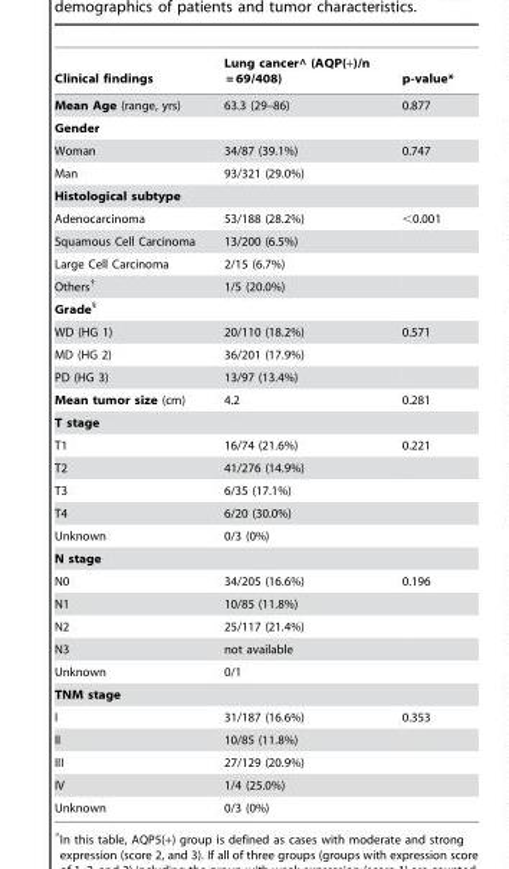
<table><thead><tr><td>Clinical findings</td><td>Lung cancer^ (AQP(+)/n = 69/408)</td><td>p-value*</td></tr></thead><tbody><tr><td>Mean Age (range, yrs)</td><td>63.3 (29–86)</td><td>0.877</td></tr><tr><td colspan="3">Gender</td></tr><tr><td>Woman</td><td>34/87 (39.1%)</td><td>0.747</td></tr><tr><td>Man</td><td>93/321 (29.0%)</td><td></td></tr><tr><td colspan="3">Histological subtype</td></tr><tr><td>Adenocarcinoma</td><td>53/188 (28.2%)</td><td>&lt;0.001</td></tr><tr><td>Squamous Cell Carcinoma</td><td>13/200 (6.5%)</td><td></td></tr><tr><td>Large Cell Carcinoma</td><td>2/15 (6.7%)</td><td></td></tr><tr><td>Others†</td><td>1/5 (20.0%)</td><td></td></tr><tr><td colspan="3">Grade§</td></tr><tr><td>WD (HG 1)</td><td>20/110 (18.2%)</td><td>0.571</td></tr><tr><td>MD (HG 2)</td><td>36/201 (17.9%)</td><td></td></tr><tr><td>PD (HG 3)</td><td>13/97 (13.4%)</td><td></td></tr><tr><td>Mean tumor size (cm)</td><td>4.2</td><td>0.281</td></tr><tr><td colspan="3">T stage</td></tr><tr><td>T1</td><td>16/74 (21.6%)</td><td>0.221</td></tr><tr><td>T2</td><td>41/276 (14.9%)</td><td></td></tr><tr><td>T3</td><td>6/35 (17.1%)</td><td></td></tr><tr><td>T4</td><td>6/20 (30.0%)</td><td></td></tr><tr><td>Unknown</td><td>0/3 (0%)</td><td></td></tr><tr><td colspan="3">N stage</td></tr><tr><td>N0</td><td>34/205 (16.6%)</td><td>0.196</td></tr><tr><td>N1</td><td>10/85 (11.8%)</td><td></td></tr><tr><td>N2</td><td>25/117 (21.4%)</td><td></td></tr><tr><td>N3</td><td>not available</td><td></td></tr><tr><td>Unknown</td><td>0/1</td><td></td></tr><tr><td colspan="3">TNM stage</td></tr><tr><td>I</td><td>31/187 (16.6%)</td><td>0.353</td></tr><tr><td>II</td><td>10/85 (11.8%)</td><td></td></tr><tr><td>III</td><td>27/129 (20.9%)</td><td></td></tr><tr><td>IV</td><td>1/4 (25.0%)</td><td></td></tr><tr><td>Unknown</td><td>0/3 (0%)</td><td></td></tr></tbody></table>